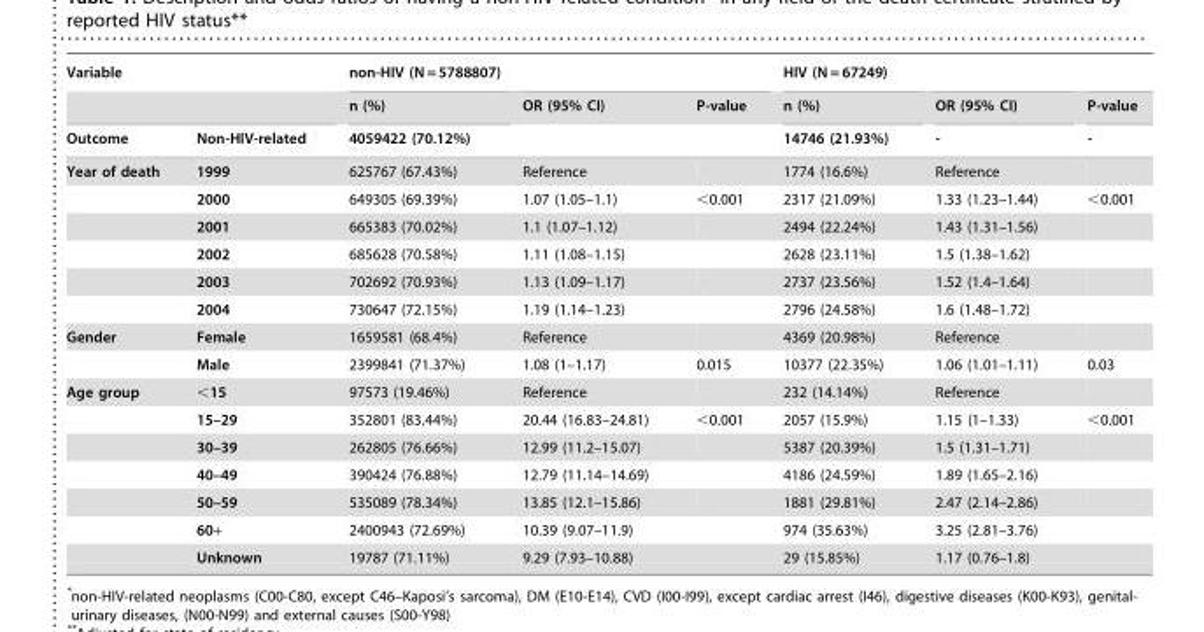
<table><thead><tr><td colspan="2">Variable</td><td colspan="3">non-HIV (N = 5788807)</td><td colspan="3">HIV (N = 67249)</td></tr><tr><td rowspan="2">Outcome</td><td rowspan="2">Non-HIV-related</td><td rowspan="2">n (%) 4059422 (70.12%)</td><td rowspan="2">OR (95% CI)</td><td rowspan="2">P-value</td><td rowspan="2">n (%) 14746 (21.93%)</td><td rowspan="2">OR (95% CI) -</td><td rowspan="2">P-value -</td></tr><tr></tr></thead><tbody><tr><td rowspan="6">Year of death</td><td>1999</td><td>625767 (67.43%)</td><td>Reference</td><td></td><td>1774 (16.6%)</td><td>Reference</td><td></td></tr><tr><td>2000</td><td>649305 (69.39%)</td><td>1.07 (1.05–1.1)</td><td>&lt;0.001</td><td>2317 (21.09%)</td><td>1.33 (1.23–1.44)</td><td>&lt;0.001</td></tr><tr><td>2001</td><td>665383 (70.02%)</td><td>1.1 (1.07–1.12)</td><td></td><td>2494 (22.24%)</td><td>1.43 (1.31–1.56)</td><td></td></tr><tr><td>2002</td><td>685628 (70.58%)</td><td>1.11 (1.08–1.15)</td><td></td><td>2628 (23.11%)</td><td>1.5 (1.38–1.62)</td><td></td></tr><tr><td>2003</td><td>702692 (70.93%)</td><td>1.13 (1.09–1.17)</td><td></td><td>2737 (23.56%)</td><td>1.52 (1.4–1.64)</td><td></td></tr><tr><td>2004</td><td>730647 (72.15%)</td><td>1.19 (1.14–1.23)</td><td></td><td>2796 (24.58%)</td><td>1.6 (1.48–1.72)</td><td></td></tr><tr><td rowspan="2">Gender</td><td>Female</td><td>1659581 (68.4%)</td><td>Reference</td><td></td><td>4369 (20.98%)</td><td>Reference</td><td></td></tr><tr><td>Male</td><td>2399841 (71.37%)</td><td>1.08 (1–1.17)</td><td>0.015</td><td>10377 (22.35%)</td><td>1.06 (1.01–1.11)</td><td>0.03</td></tr><tr><td rowspan="7">Age group</td><td>&lt;15</td><td>97573 (19.46%)</td><td>Reference</td><td></td><td>232 (14.14%)</td><td>Reference</td><td></td></tr><tr><td>15–29</td><td>352801 (83.44%)</td><td>20.44 (16.83–24.81)</td><td>&lt;0.001</td><td>2057 (15.9%)</td><td>1.15 (1–1.33)</td><td>&lt;0.001</td></tr><tr><td>30–39</td><td>262805 (76.66%)</td><td>12.99 (11.2–15.07)</td><td></td><td>5387 (20.39%)</td><td>1.5 (1.31–1.71)</td><td></td></tr><tr><td>40–49</td><td>390424 (76.88%)</td><td>12.79 (11.14–14.69)</td><td></td><td>4186 (24.59%)</td><td>1.89 (1.65–2.16)</td><td></td></tr><tr><td>50–59</td><td>535089 (78.34%)</td><td>13.85 (12.1–15.86)</td><td></td><td>1881 (29.81%)</td><td>2.47 (2.14–2.86)</td><td></td></tr><tr><td>60+</td><td>2400943 (72.69%)</td><td>10.39 (9.07–11.9)</td><td></td><td>974 (35.63%)</td><td>3.25 (2.81–3.76)</td><td></td></tr><tr><td>Unknown</td><td>19787 (71.11%)</td><td>9.29 (7.93–10.88)</td><td></td><td>29 (15.85%)</td><td>1.17 (0.76–1.8)</td><td></td></tr></tbody></table>